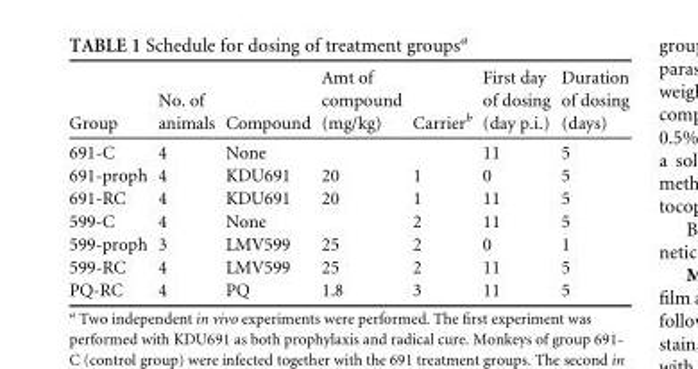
<table><thead><tr><td>Group</td><td>No. of animals</td><td>Compound</td><td>Amt of compound (mg/kg)</td><td>Carrier<sup>b</sup></td><td>First day of dosing (day p.i.)</td><td>Duration of dosing (days)</td></tr></thead><tbody><tr><td>691-C</td><td>4</td><td>None</td><td></td><td></td><td>11</td><td>5</td></tr><tr><td>691-proph</td><td>4</td><td>KDU691</td><td>20</td><td>1</td><td>0</td><td>5</td></tr><tr><td>691-RC</td><td>4</td><td>KDU691</td><td>20</td><td>1</td><td>11</td><td>5</td></tr><tr><td>599-C</td><td>4</td><td>None</td><td></td><td>2</td><td>11</td><td>5</td></tr><tr><td>599-proph</td><td>3</td><td>LMV599</td><td>25</td><td>2</td><td>0</td><td>1</td></tr><tr><td>599-RC</td><td>4</td><td>LMV599</td><td>25</td><td>2</td><td>11</td><td>5</td></tr><tr><td>PQ-RC</td><td>4</td><td>PQ</td><td>1.8</td><td>3</td><td>11</td><td>5</td></tr></tbody></table>